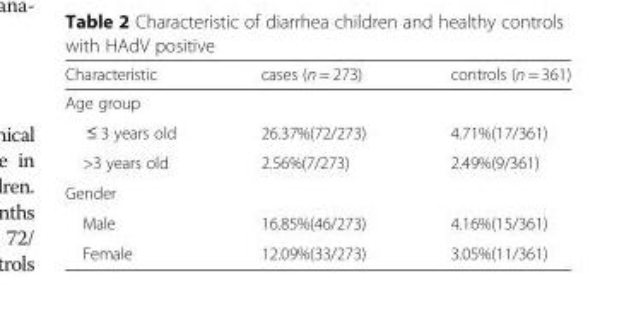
<table><thead><tr><td>Characteristic</td><td>cases (n = 273)</td><td>controls (n = 361)</td></tr></thead><tbody><tr><td colspan="3">Age group</td></tr><tr><td>≤ 3 years old</td><td>26.37%(72/273)</td><td>4.71%(17/361)</td></tr><tr><td>&gt;3 years old</td><td>2.56%(7/273)</td><td>2.49%(9/361)</td></tr><tr><td colspan="3">Gender</td></tr><tr><td>Male</td><td>16.85%(46/273)</td><td>4.16%(15/361)</td></tr><tr><td>Female</td><td>12.09%(33/273)</td><td>3.05%(11/361)</td></tr></tbody></table>